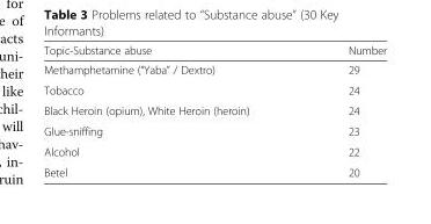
<table><thead><tr><td>Topic-Substance abuse</td><td>Number</td></tr></thead><tbody><tr><td>Methamphetamine (“Yaba” / Dextro)</td><td>29</td></tr><tr><td>Tobacco</td><td>24</td></tr><tr><td>Black Heroin (opium), White Heroin (heroin)</td><td>24</td></tr><tr><td>Glue-sniffing</td><td>23</td></tr><tr><td>Alcohol</td><td>22</td></tr><tr><td>Betel</td><td>20</td></tr></tbody></table>